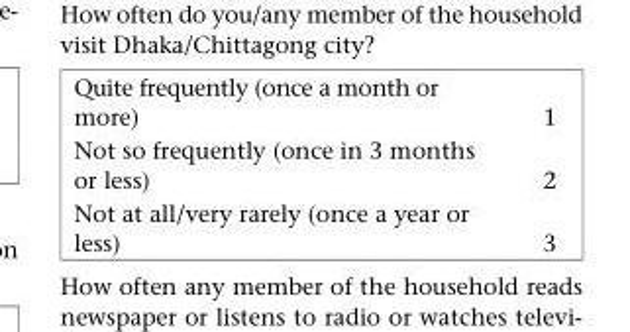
<table><tbody><tr><td>Quite frequently (once a month or more)</td><td>1</td></tr><tr><td>Not so frequently (once in 3 months or less)</td><td>2</td></tr><tr><td>Not at all/very rarely (once a year or less)</td><td>3</td></tr></tbody></table>